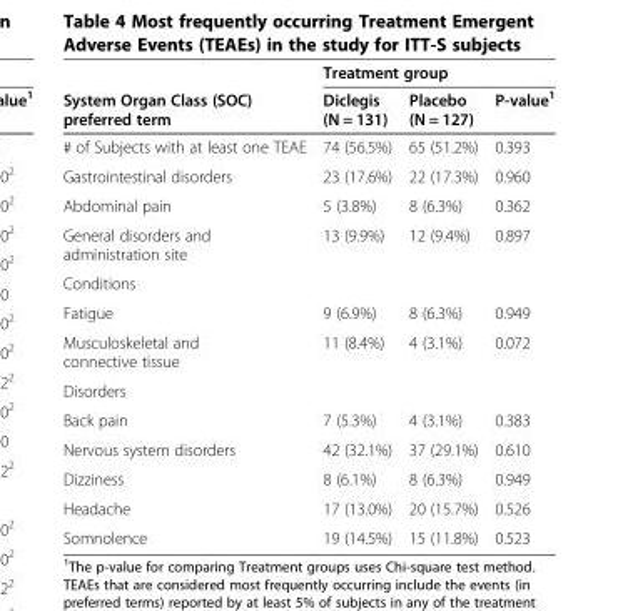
<table><thead><tr><td rowspan="2">System Organ Class (SOC) preferred term</td><td colspan="3">Treatment group</td></tr><tr><td>Diclegis (N = 131)</td><td>Placebo (N = 127)</td><td>P-value<sup>1</sup></td></tr></thead><tbody><tr><td># of Subjects with at least one TEAE</td><td>74 (56.5%)</td><td>65 (51.2%)</td><td>0.393</td></tr><tr><td>Gastrointestinal disorders</td><td>23 (17.6%)</td><td>22 (17.3%)</td><td>0.960</td></tr><tr><td>Abdominal pain</td><td>5 (3.8%)</td><td>8 (6.3%)</td><td>0.362</td></tr><tr><td>General disorders and administration site</td><td>13 (9.9%)</td><td>12 (9.4%)</td><td>0.897</td></tr><tr><td colspan="4">Conditions</td></tr><tr><td>Fatigue</td><td>9 (6.9%)</td><td>8 (6.3%)</td><td>0.949</td></tr><tr><td>Musculoskeletal and connective tissue</td><td>11 (8.4%)</td><td>4 (3.1%)</td><td>0.072</td></tr><tr><td colspan="4">Disorders</td></tr><tr><td>Back pain</td><td>7 (5.3%)</td><td>4 (3.1%)</td><td>0.383</td></tr><tr><td>Nervous system disorders</td><td>42 (32.1%)</td><td>37 (29.1%)</td><td>0.610</td></tr><tr><td>Dizziness</td><td>8 (6.1%)</td><td>8 (6.3%)</td><td>0.949</td></tr><tr><td>Headache</td><td>17 (13.0%)</td><td>20 (15.7%)</td><td>0.526</td></tr><tr><td>Somnolence</td><td>19 (14.5%)</td><td>15 (11.8%)</td><td>0.523</td></tr></tbody></table>